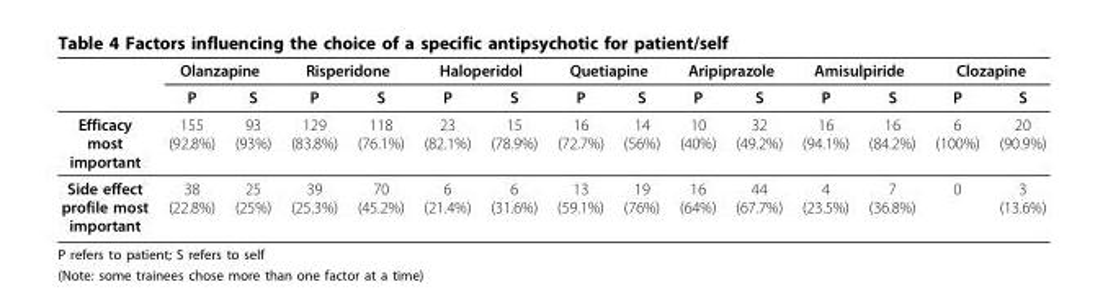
<table><thead><tr><td rowspan="2"></td><td colspan="2">Olanzapine</td><td colspan="2">Risperidone</td><td colspan="2">Haloperidol</td><td colspan="2">Quetiapine</td><td colspan="2">Aripiprazole</td><td colspan="2">Amisulpiride</td><td colspan="2">Clozapine</td></tr><tr><td>P</td><td>S</td><td>P</td><td>S</td><td>P</td><td>S</td><td>P</td><td>S</td><td>P</td><td>S</td><td>P</td><td>S</td><td>P</td><td>S</td></tr></thead><tbody><tr><td>Efficacy most important</td><td>155 (92.8%)</td><td>93 (93%)</td><td>129 (83.8%)</td><td>118 (76.1%)</td><td>23 (82.1%)</td><td>15 (78.9%)</td><td>16 (72.7%)</td><td>14 (56%)</td><td>10 (40%)</td><td>32 (49.2%)</td><td>16 (94.1%)</td><td>16 (84.2%)</td><td>6 (100%)</td><td>20 (90.9%)</td></tr><tr><td>Side effect profile most important</td><td>38 (22.8%)</td><td>25 (25%)</td><td>39 (25.3%)</td><td>70 (45.2%)</td><td>6 (21.4%)</td><td>6 (31.6%)</td><td>13 (59.1%)</td><td>19 (76%)</td><td>16 (64%)</td><td>44 (67.7%)</td><td>4 (23.5%)</td><td>7 (36.8%)</td><td>0</td><td>3 (13.6%)</td></tr></tbody></table>